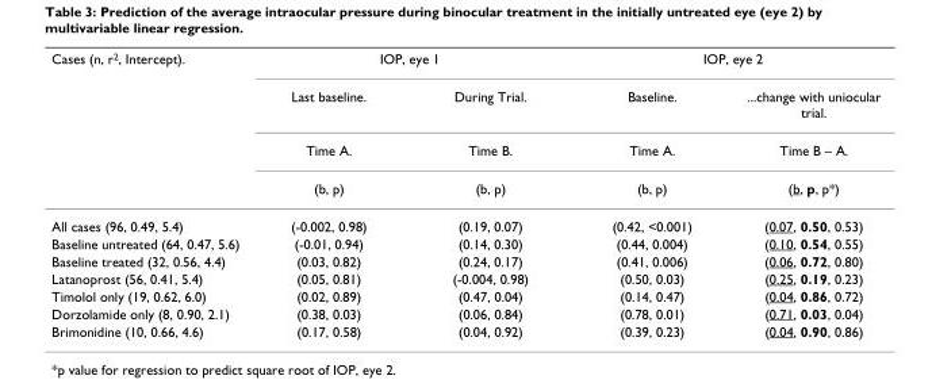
<table><thead><tr><td rowspan="4">Cases (n, r<sup>2</sup>, Intercept).</td><td colspan="2">IOP, eye 1</td><td colspan="2">IOP, eye 2</td></tr><tr><td rowspan="3">Last baseline. Time A. (b, p)</td><td rowspan="3">During Trial. Time B. (b, p)</td><td rowspan="3">Baseline. Time A. (b, p)</td><td rowspan="3">...change with uniocular trial. Time B – A. (b, p, p*)</td></tr><tr></tr><tr></tr></thead><tbody><tr><td>All cases (96, 0.49, 5.4)</td><td>(-0.002, 0.98)</td><td>(0.19, 0.07)</td><td>(0.42, &lt;0.001)</td><td>(0.07, 0.50, 0.53)</td></tr><tr><td>Baseline untreated (64, 0.47, 5.6)</td><td>(-0.01, 0.94)</td><td>(0.14, 0.30)</td><td>(0.44, 0.004)</td><td>(0.10, 0.54, 0.55)</td></tr><tr><td>Baseline treated (32, 0.56, 4.4)</td><td>(0.03, 0.82)</td><td>(0.24, 0.17)</td><td>(0.41, 0.006)</td><td>(0.06, 0.72, 0.80)</td></tr><tr><td>Latanoprost (56, 0.41, 5.4)</td><td>(0.05, 0.81)</td><td>(-0.004, 0.98)</td><td>(0.50, 0.03)</td><td>(0.25, 0.19, 0.23)</td></tr><tr><td>Timolol only (19, 0.62, 6.0)</td><td>(0.02, 0.89)</td><td>(0.47, 0.04)</td><td>(0.14, 0.47)</td><td>(0.04, 0.86, 0.72)</td></tr><tr><td>Dorzolamide only (8, 0.90, 2.1)</td><td>(0.38, 0.03)</td><td>(0.06, 0.84)</td><td>(0.78, 0.01)</td><td>(0.71, 0.03, 0.04)</td></tr><tr><td>Brimonidine (10, 0.66, 4.6)</td><td>(0.17, 0.58)</td><td>(0.04, 0.92)</td><td>(0.39, 0.23)</td><td>(0.04, 0.90, 0.86)</td></tr></tbody></table>